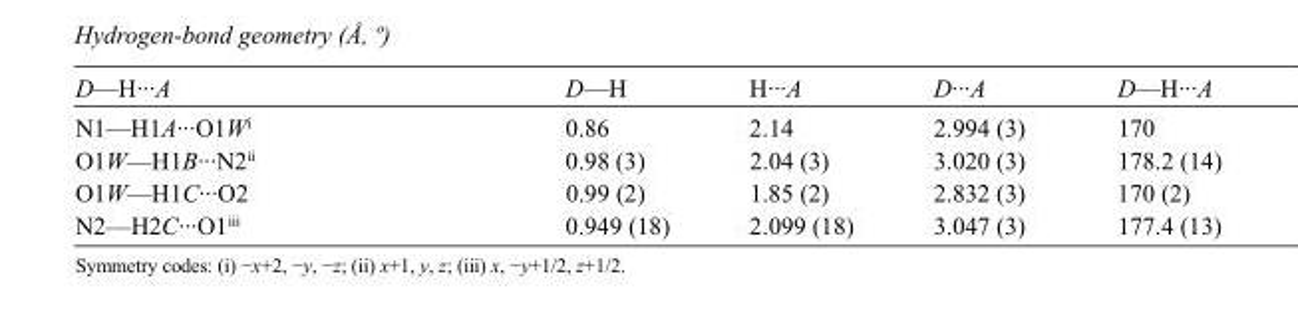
<table><tbody><tr><td>D—H···A</td><td>D—H</td><td>H···A</td><td>D···A</td><td>D—H···A</td></tr><tr><td>N1—H1A···O1W<sup>i</sup></td><td>0.86</td><td>2.14</td><td>2.994 (3)</td><td>170</td></tr><tr><td>O1W—H1B···N2<sup>ii</sup></td><td>0.98 (3)</td><td>2.04 (3)</td><td>3.020 (3)</td><td>178.2 (14)</td></tr><tr><td>O1W—H1C···O2</td><td>0.99 (2)</td><td>1.85 (2)</td><td>2.832 (3)</td><td>170 (2)</td></tr><tr><td>N2—H2C···O1<sup>iii</sup></td><td>0.949 (18)</td><td>2.099 (18)</td><td>3.047 (3)</td><td>177.4 (13)</td></tr></tbody></table>